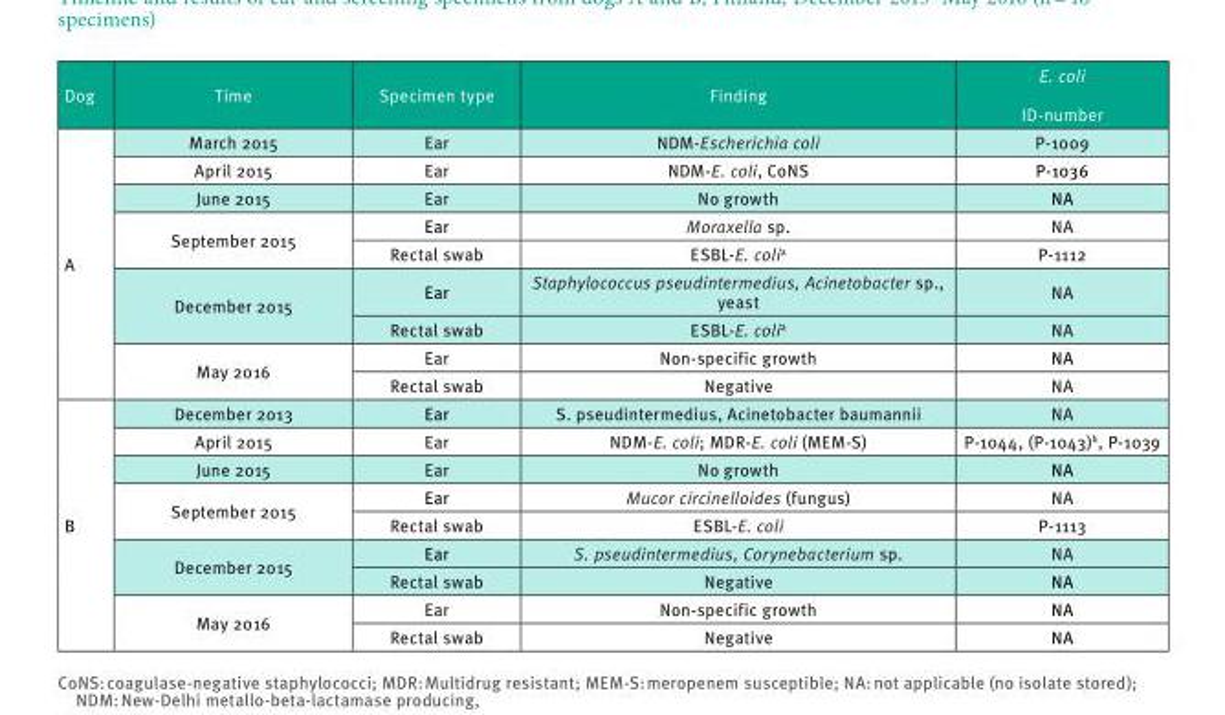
<table><thead><tr><td>Dog</td><td>Time</td><td>Specimen type</td><td>Finding</td><td>E. coli ID-number</td></tr></thead><tbody><tr><td rowspan="9">A</td><td>March 2015</td><td>Ear</td><td>NDM-Escherichia coli</td><td>P-1009</td></tr><tr><td>April 2015</td><td>Ear</td><td>NDM-E. coli, CoNS</td><td>P-1036</td></tr><tr><td>June 2015</td><td>Ear</td><td>No growth</td><td>NA</td></tr><tr><td rowspan="2">September 2015</td><td>Ear</td><td>Moraxella sp.</td><td>NA</td></tr><tr><td>Rectal swab</td><td>ESBL-E. coli<sup>a</sup></td><td>P-1112</td></tr><tr><td rowspan="2">December 2015</td><td>Ear</td><td>Staphylococcus pseudintermedius, Acinetobacter sp., yeast</td><td>NA</td></tr><tr><td>Rectal swab</td><td>ESBL-E. coli<sup>a</sup></td><td>NA</td></tr><tr><td rowspan="2">May 2016</td><td>Ear</td><td>Non-specific growth</td><td>NA</td></tr><tr><td>Rectal swab</td><td>Negative</td><td>NA</td></tr><tr><td rowspan="9">B</td><td>December 2013</td><td>Ear</td><td>S. pseudintermedius, Acinetobacter baumannii</td><td>NA</td></tr><tr><td>April 2015</td><td>Ear</td><td>NDM-E. coli; MDR-E. coli (MEM-S)</td><td>P-1044, (P-1043)<sup>b</sup>, P-1039</td></tr><tr><td>June 2015</td><td>Ear</td><td>No growth</td><td>NA</td></tr><tr><td rowspan="2">September 2015</td><td>Ear</td><td>Mucor circinelloides (fungus)</td><td>NA</td></tr><tr><td>Rectal swab</td><td>ESBL-E. coli</td><td>P-1113</td></tr><tr><td rowspan="2">December 2015</td><td>Ear</td><td>S. pseudintermedius, Corynebacterium sp.</td><td>NA</td></tr><tr><td>Rectal swab</td><td>Negative</td><td>NA</td></tr><tr><td rowspan="2">May 2016</td><td>Ear</td><td>Non-specific growth</td><td>NA</td></tr><tr><td>Rectal swab</td><td>Negative</td><td>NA</td></tr></tbody></table>